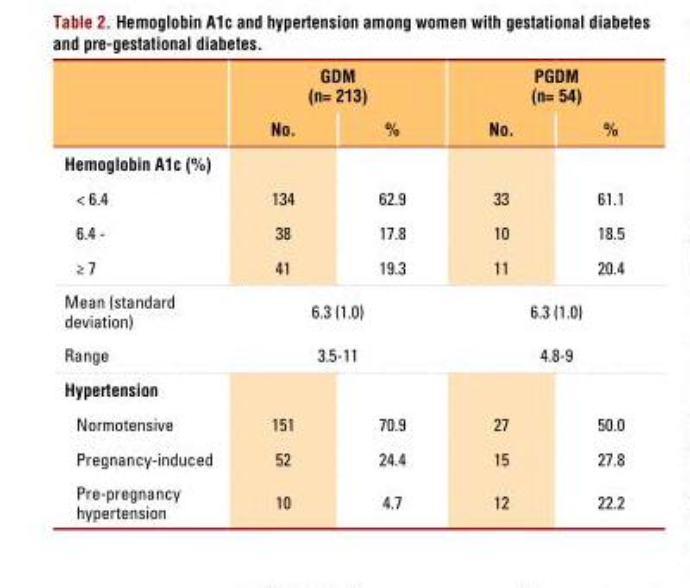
<table><thead><tr><td rowspan="2"></td><td colspan="2">GDM (n= 213)</td><td colspan="2">PGDM (n= 54)</td></tr><tr><td>No.</td><td>%</td><td>No.</td><td>%</td></tr></thead><tbody><tr><td colspan="5">Hemoglobin A1c (%)</td></tr><tr><td>&lt; 6.4</td><td>134</td><td>62.9</td><td>33</td><td>61.1</td></tr><tr><td>6.4 -</td><td>38</td><td>17.8</td><td>10</td><td>18.5</td></tr><tr><td>≥ 7</td><td>41</td><td>19.3</td><td>11</td><td>20.4</td></tr><tr><td>Mean (standard deviation)</td><td colspan="2">6.3 (1.0)</td><td colspan="2">6.3 (1.0)</td></tr><tr><td>Range</td><td colspan="2">3.5-11</td><td colspan="2">4.8-9</td></tr><tr><td colspan="5">Hypertension</td></tr><tr><td>Normotensive</td><td>151</td><td>70.9</td><td>27</td><td>50.0</td></tr><tr><td>Pregnancy-induced</td><td>52</td><td>24.4</td><td>15</td><td>27.8</td></tr><tr><td>Pre-pregnancy hypertension</td><td>10</td><td>4.7</td><td>12</td><td>22.2</td></tr></tbody></table>